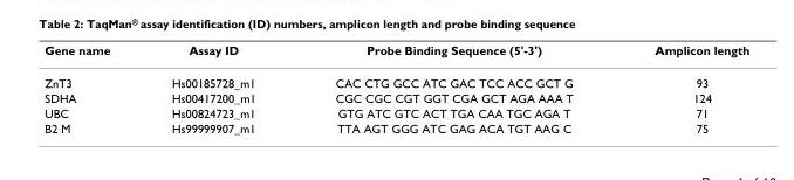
<table><thead><tr><td>Gene name</td><td>Assay ID</td><td>Probe Binding Sequence (5&#x27;-3&#x27;)</td><td>Amplicon length</td></tr></thead><tbody><tr><td>ZnT3</td><td>Hs00185728_m1</td><td>CAC CTG GCC ATC GAC TCC ACC GCT G</td><td>93</td></tr><tr><td>SDHA</td><td>Hs00417200_m1</td><td>CGC CGC CGT GGT CGA GCT AGA AAA T</td><td>124</td></tr><tr><td>UBC</td><td>Hs00824723_m1</td><td>GTG ATC GTC ACT TGA CAA TGC AGA T</td><td>71</td></tr><tr><td>B2 M</td><td>Hs99999907_m1</td><td>TTA AGT GGG ATC GAG ACA TGT AAG C</td><td>75</td></tr></tbody></table>